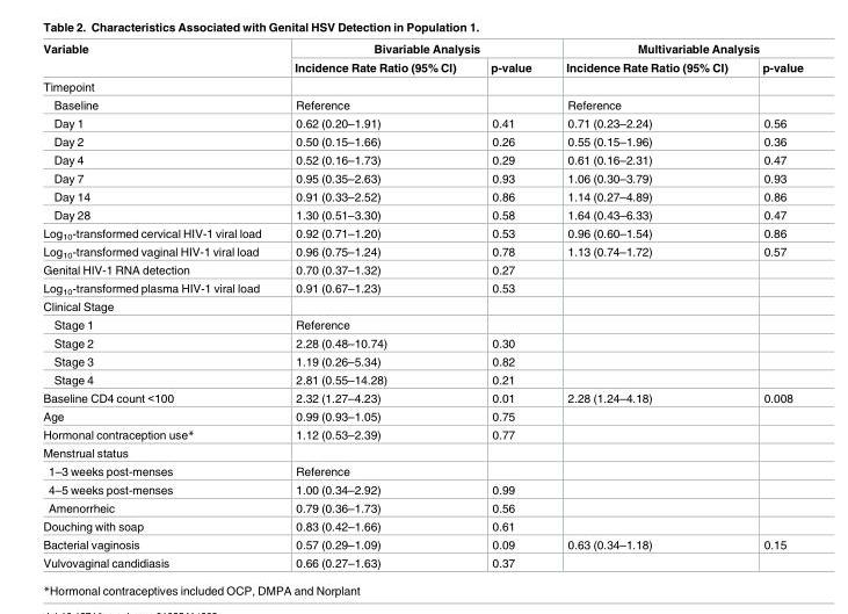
<table><thead><tr><td rowspan="2">Variable</td><td colspan="2">Bivariable Analysis</td><td colspan="2">Multivariable Analysis</td></tr><tr><td>Incidence Rate Ratio (95% CI)</td><td>p-value</td><td>Incidence Rate Ratio (95% CI)</td><td>p-value</td></tr></thead><tbody><tr><td colspan="5">Timepoint</td></tr><tr><td>Baseline</td><td>Reference</td><td></td><td>Reference</td><td></td></tr><tr><td>Day 1</td><td>0.62 (0.20–1.91)</td><td>0.41</td><td>0.71 (0.23–2.24)</td><td>0.56</td></tr><tr><td>Day 2</td><td>0.50 (0.15–1.66)</td><td>0.26</td><td>0.55 (0.15–1.96)</td><td>0.36</td></tr><tr><td>Day 4</td><td>0.52 (0.16–1.73)</td><td>0.29</td><td>0.61 (0.16–2.31)</td><td>0.47</td></tr><tr><td>Day 7</td><td>0.95 (0.35–2.63)</td><td>0.93</td><td>1.06 (0.30–3.79)</td><td>0.93</td></tr><tr><td>Day 14</td><td>0.91 (0.33–2.52)</td><td>0.86</td><td>1.14 (0.27–4.89)</td><td>0.86</td></tr><tr><td>Day 28</td><td>1.30 (0.51–3.30)</td><td>0.58</td><td>1.64 (0.43–6.33)</td><td>0.47</td></tr><tr><td>Log<sub>10</sub>-transformed cervical HIV-1 viral load</td><td>0.92 (0.71–1.20)</td><td>0.53</td><td>0.96 (0.60–1.54)</td><td>0.86</td></tr><tr><td>Log<sub>10</sub>-transformed vaginal HIV-1 viral load</td><td>0.96 (0.75–1.24)</td><td>0.78</td><td>1.13 (0.74–1.72)</td><td>0.57</td></tr><tr><td>Genital HIV-1 RNA detection</td><td>0.70 (0.37–1.32)</td><td>0.27</td><td></td><td></td></tr><tr><td>Log<sub>10</sub>-transformed plasma HIV-1 viral load</td><td>0.91 (0.67–1.23)</td><td>0.53</td><td></td><td></td></tr><tr><td colspan="5">Clinical Stage</td></tr><tr><td>Stage 1</td><td>Reference</td><td></td><td></td><td></td></tr><tr><td>Stage 2</td><td>2.28 (0.48–10.74)</td><td>0.30</td><td></td><td></td></tr><tr><td>Stage 3</td><td>1.19 (0.26–5.34)</td><td>0.82</td><td></td><td></td></tr><tr><td>Stage 4</td><td>2.81 (0.55–14.28)</td><td>0.21</td><td></td><td></td></tr><tr><td>Baseline CD4 count &lt;100</td><td>2.32 (1.27–4.23)</td><td>0.01</td><td>2.28 (1.24–4.18)</td><td>0.008</td></tr><tr><td>Age</td><td>0.99 (0.93–1.05)</td><td>0.75</td><td></td><td></td></tr><tr><td>Hormonal contraception use*</td><td>1.12 (0.53–2.39)</td><td>0.77</td><td></td><td></td></tr><tr><td colspan="5">Menstrual status</td></tr><tr><td>1–3 weeks post-menses</td><td>Reference</td><td></td><td></td><td></td></tr><tr><td>4–5 weeks post-menses</td><td>1.00 (0.34–2.92)</td><td>0.99</td><td></td><td></td></tr><tr><td>Amenorrheic</td><td>0.79 (0.36–1.73)</td><td>0.56</td><td></td><td></td></tr><tr><td>Douching with soap</td><td>0.83 (0.42–1.66)</td><td>0.61</td><td></td><td></td></tr><tr><td>Bacterial vaginosis</td><td>0.57 (0.29–1.09)</td><td>0.09</td><td>0.63 (0.34–1.18)</td><td>0.15</td></tr><tr><td>Vulvovaginal candidiasis</td><td>0.66 (0.27–1.63)</td><td>0.37</td><td></td><td></td></tr></tbody></table>